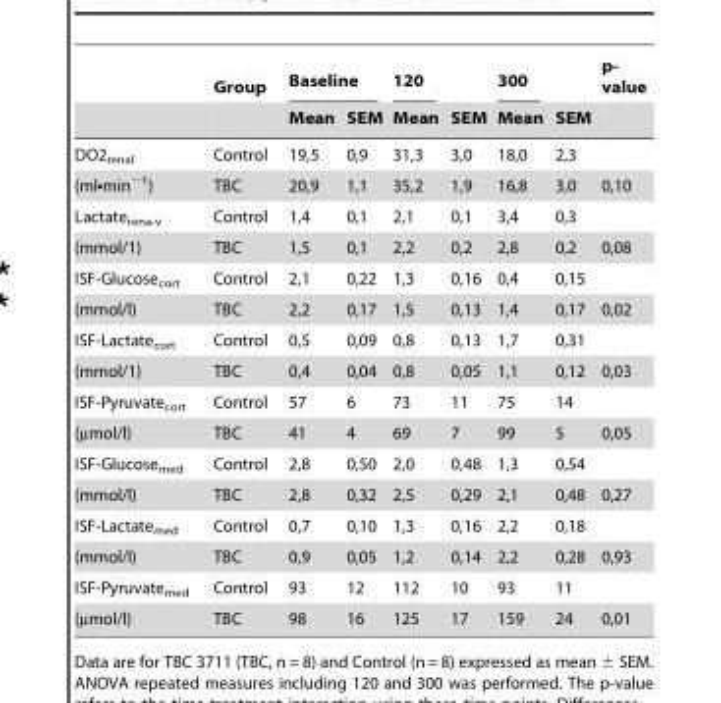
<table><thead><tr><td rowspan="2"></td><td rowspan="2">Group</td><td colspan="2">Baseline</td><td rowspan="2">120 Mean</td><td rowspan="2">SEM</td><td rowspan="2">300 Mean</td><td rowspan="2">SEM</td><td rowspan="2">value</td></tr><tr><td>Mean</td><td>SEM</td></tr></thead><tbody><tr><td>DO2<sub>renal</sub></td><td>Control</td><td>19,5</td><td>0,9</td><td>31,3</td><td>3,0</td><td>18,0</td><td>2,3</td><td></td></tr><tr><td>(ml•min<sup>−1</sup>)</td><td>TBC</td><td>20,9</td><td>1,1</td><td>35,2</td><td>1,9</td><td>16,8</td><td>3,0</td><td>0,10</td></tr><tr><td>Lactate<sub>rena-v</sub></td><td>Control</td><td>1,4</td><td>0,1</td><td>2,1</td><td>0,1</td><td>3,4</td><td>0,3</td><td></td></tr><tr><td>(mmol/1)</td><td>TBC</td><td>1,5</td><td>0,1</td><td>2,2</td><td>0,2</td><td>2,8</td><td>0,2</td><td>0,08</td></tr><tr><td>ISF-Glucose<sub>cort</sub></td><td>Control</td><td>2,1</td><td>0,22</td><td>1,3</td><td>0,16</td><td>0,4</td><td>0,15</td><td></td></tr><tr><td>(mmol/l)</td><td>TBC</td><td>2,2</td><td>0,17</td><td>1,5</td><td>0,13</td><td>1,4</td><td>0,17</td><td>0,02</td></tr><tr><td>ISF-Lactate<sub>cort</sub></td><td>Control</td><td>0,5</td><td>0,09</td><td>0,8</td><td>0,13</td><td>1,7</td><td>0,31</td><td></td></tr><tr><td>(mmol/1)</td><td>TBC</td><td>0,4</td><td>0,04</td><td>0,8</td><td>0,05</td><td>1,1</td><td>0,12</td><td>0,03</td></tr><tr><td>ISF-Pyruvate<sub>cort</sub></td><td>Control</td><td>57</td><td>6</td><td>73</td><td>11</td><td>75</td><td>14</td><td></td></tr><tr><td>(µmol/l)</td><td>TBC</td><td>41</td><td>4</td><td>69</td><td>7</td><td>99</td><td>5</td><td>0,05</td></tr><tr><td>ISF-Glucose<sub>med</sub></td><td>Control</td><td>2,8</td><td>0,50</td><td>2,0</td><td>0,48</td><td>1,3</td><td>0,54</td><td></td></tr><tr><td>(mmol/l)</td><td>TBC</td><td>2,8</td><td>0,32</td><td>2,5</td><td>0,29</td><td>2,1</td><td>0,48</td><td>0,27</td></tr><tr><td>ISF-Lactate<sub>med</sub></td><td>Control</td><td>0,7</td><td>0,10</td><td>1,3</td><td>0,16</td><td>2,2</td><td>0,18</td><td></td></tr><tr><td>(mmol/l)</td><td>TBC</td><td>0,9</td><td>0,05</td><td>1,2</td><td>0,14</td><td>2,2</td><td>0,28</td><td>0,93</td></tr><tr><td>ISF-Pyruvate<sub>med</sub></td><td>Control</td><td>93</td><td>12</td><td>112</td><td>10</td><td>93</td><td>11</td><td></td></tr><tr><td>(µmol/l)</td><td>TBC</td><td>98</td><td>16</td><td>125</td><td>17</td><td>159</td><td>24</td><td>0,01</td></tr></tbody></table>